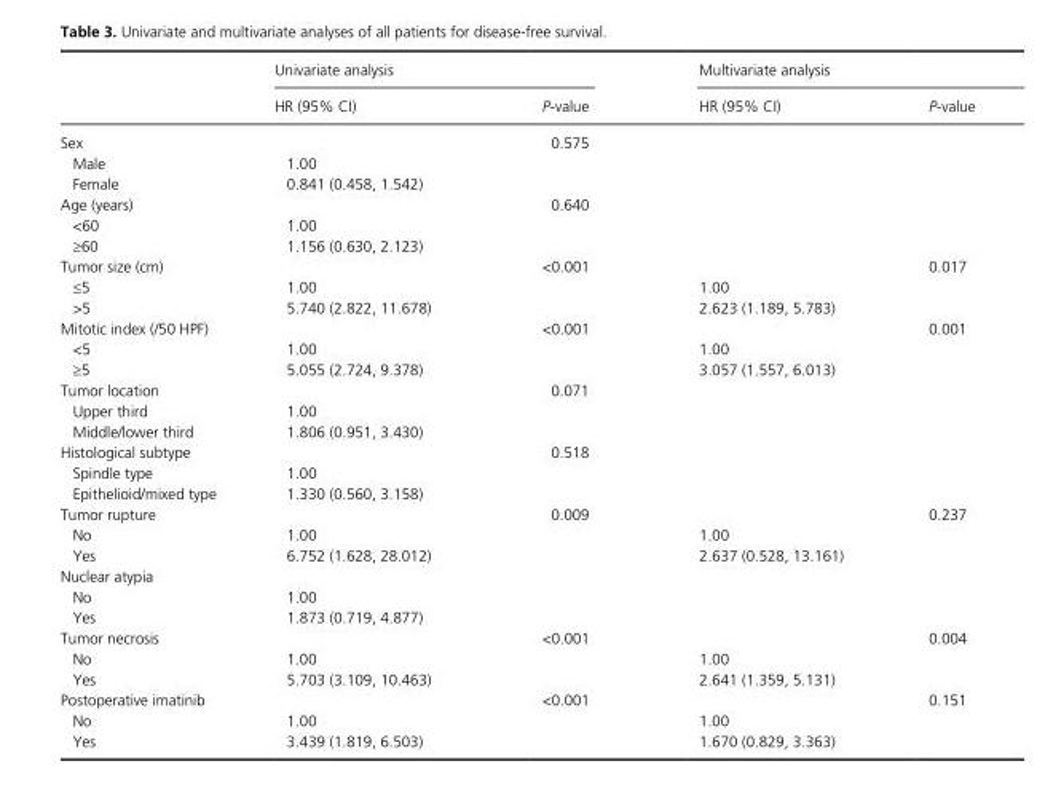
<table><thead><tr><td rowspan="2"></td><td colspan="2">Univariate analysis</td><td colspan="2">Multivariate analysis</td></tr><tr><td>HR (95% CI)</td><td>P- value</td><td>HR (95% CI)</td><td>P- value</td></tr></thead><tbody><tr><td>Sex</td><td></td><td>0.575</td><td></td><td></td></tr><tr><td>Male</td><td>1.00</td><td></td><td></td><td></td></tr><tr><td>Female</td><td>0.841 (0.458, 1.542)</td><td></td><td></td><td></td></tr><tr><td>Age (years)</td><td></td><td>0.640</td><td></td><td></td></tr><tr><td>&lt;60</td><td>1.00</td><td></td><td></td><td></td></tr><tr><td>≥60</td><td>1.156 (0.630, 2.123)</td><td></td><td></td><td></td></tr><tr><td>Tumor size (cm)</td><td></td><td>&lt;0.001</td><td></td><td>0.017</td></tr><tr><td>≤5</td><td>1.00</td><td></td><td>1.00</td><td></td></tr><tr><td>&gt;5</td><td>5.740 (2.822, 11.678)</td><td></td><td>2.623 (1.189, 5.783)</td><td></td></tr><tr><td>Mitotic index (/50 HPF)</td><td></td><td>&lt;0.001</td><td></td><td>0.001</td></tr><tr><td>&lt;5</td><td>1.00</td><td></td><td>1.00</td><td></td></tr><tr><td>≥5</td><td>5.055 (2.724, 9.378)</td><td></td><td>3.057 (1.557, 6.013)</td><td></td></tr><tr><td>Tumor location</td><td></td><td>0.071</td><td></td><td></td></tr><tr><td>Upper third</td><td>1.00</td><td></td><td></td><td></td></tr><tr><td>Middle/lower third</td><td>1.806 (0.951, 3.430)</td><td></td><td></td><td></td></tr><tr><td>Histological subtype</td><td></td><td>0.518</td><td></td><td></td></tr><tr><td>Spindle type</td><td>1.00</td><td></td><td></td><td></td></tr><tr><td>Epithelioid/mixed type</td><td>1.330 (0.560, 3.158)</td><td></td><td></td><td></td></tr><tr><td>Tumor rupture</td><td></td><td>0.009</td><td></td><td>0.237</td></tr><tr><td>No</td><td>1.00</td><td></td><td>1.00</td><td></td></tr><tr><td>Yes</td><td>6.752 (1.628, 28.012)</td><td></td><td>2.637 (0.528, 13.161)</td><td></td></tr><tr><td colspan="5">Nuclear atypia</td></tr><tr><td>No</td><td>1.00</td><td></td><td></td><td></td></tr><tr><td>Yes</td><td>1.873 (0.719, 4.877)</td><td></td><td></td><td></td></tr><tr><td>Tumor necrosis</td><td></td><td>&lt;0.001</td><td></td><td>0.004</td></tr><tr><td>No</td><td>1.00</td><td></td><td>1.00</td><td></td></tr><tr><td>Yes</td><td>5.703 (3.109, 10.463)</td><td></td><td>2.641 (1.359, 5.131)</td><td></td></tr><tr><td>Postoperative imatinib</td><td></td><td>&lt;0.001</td><td></td><td>0.151</td></tr><tr><td>No</td><td>1.00</td><td></td><td>1.00</td><td></td></tr><tr><td>Yes</td><td>3.439 (1.819, 6.503)</td><td></td><td>1.670 (0.829, 3.363)</td><td></td></tr></tbody></table>